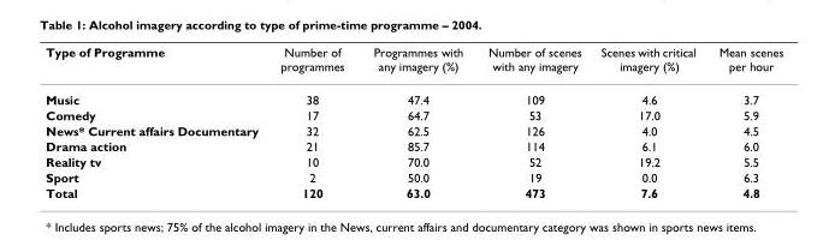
<table><thead><tr><td>Type of Programme</td><td>Number of programmes</td><td>Programmes with any imagery (%)</td><td>Number of scenes with any imagery</td><td>Scenes with critical imagery (%)</td><td>Mean scenes per hour</td></tr></thead><tbody><tr><td>Music</td><td>38</td><td>47.4</td><td>109</td><td>4.6</td><td>3.7</td></tr><tr><td>Comedy</td><td>17</td><td>64.7</td><td>53</td><td>17.0</td><td>5.9</td></tr><tr><td>News* Current affairs Documentary</td><td>32</td><td>62.5</td><td>126</td><td>4.0</td><td>4.5</td></tr><tr><td>Drama action</td><td>21</td><td>85.7</td><td>114</td><td>6.1</td><td>6.0</td></tr><tr><td>Reality tv</td><td>10</td><td>70.0</td><td>52</td><td>19.2</td><td>5.5</td></tr><tr><td>Sport</td><td>2</td><td>50.0</td><td>19</td><td>0.0</td><td>6.3</td></tr><tr><td>Total</td><td>120</td><td>63.0</td><td>473</td><td>7.6</td><td>4.8</td></tr></tbody></table>